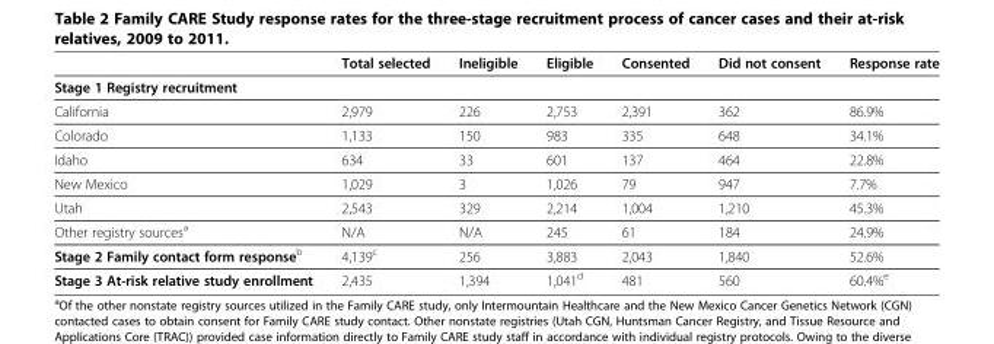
<table><thead><tr><td></td><td>Total selected</td><td>Ineligible</td><td>Eligible</td><td>Consented</td><td>Did not consent</td><td>Response rate</td></tr></thead><tbody><tr><td colspan="7">Stage 1 Registry recruitment</td></tr><tr><td>California</td><td>2,979</td><td>226</td><td>2,753</td><td>2,391</td><td>362</td><td>86.9%</td></tr><tr><td>Colorado</td><td>1,133</td><td>150</td><td>983</td><td>335</td><td>648</td><td>34.1%</td></tr><tr><td>Idaho</td><td>634</td><td>33</td><td>601</td><td>137</td><td>464</td><td>22.8%</td></tr><tr><td>New Mexico</td><td>1,029</td><td>3</td><td>1,026</td><td>79</td><td>947</td><td>7.7%</td></tr><tr><td>Utah</td><td>2,543</td><td>329</td><td>2,214</td><td>1,004</td><td>1,210</td><td>45.3%</td></tr><tr><td>Other registry sources<sup>a</sup></td><td>N/A</td><td>N/A</td><td>245</td><td>61</td><td>184</td><td>24.9%</td></tr><tr><td>Stage 2 Family contact form response<sup>b</sup></td><td>4,139<sup>c</sup></td><td>256</td><td>3,883</td><td>2,043</td><td>1,840</td><td>52.6%</td></tr><tr><td>Stage 3 At-risk relative study enrollment</td><td>2,435</td><td>1,394</td><td>1,041<sup>d</sup></td><td>481</td><td>560</td><td>60.4%<sup>e</sup></td></tr></tbody></table>